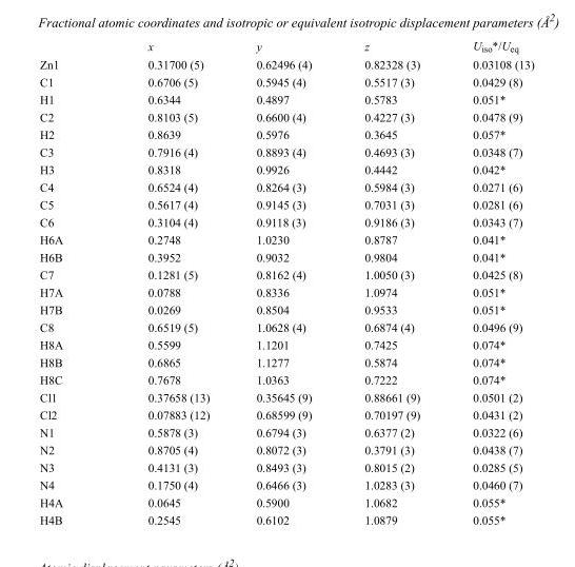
<table><thead><tr><td></td><td>x</td><td>y</td><td>z</td><td>U<sub>iso</sub>*/U<sub>eq</sub></td></tr></thead><tbody><tr><td>Zn1</td><td>0.31700 (5)</td><td>0.62496 (4)</td><td>0.82328 (3)</td><td>0.03108 (13)</td></tr><tr><td>C1</td><td>0.6706 (5)</td><td>0.5945 (4)</td><td>0.5517 (3)</td><td>0.0429 (8)</td></tr><tr><td>H1</td><td>0.6344</td><td>0.4897</td><td>0.5783</td><td>0.051*</td></tr><tr><td>C2</td><td>0.8103 (5)</td><td>0.6600 (4)</td><td>0.4227 (3)</td><td>0.0478 (9)</td></tr><tr><td>H2</td><td>0.8639</td><td>0.5976</td><td>0.3645</td><td>0.057*</td></tr><tr><td>C3</td><td>0.7916 (4)</td><td>0.8893 (4)</td><td>0.4693 (3)</td><td>0.0348 (7)</td></tr><tr><td>H3</td><td>0.8318</td><td>0.9926</td><td>0.4442</td><td>0.042*</td></tr><tr><td>C4</td><td>0.6524 (4)</td><td>0.8264 (3)</td><td>0.5984 (3)</td><td>0.0271 (6)</td></tr><tr><td>C5</td><td>0.5617 (4)</td><td>0.9145 (3)</td><td>0.7031 (3)</td><td>0.0281 (6)</td></tr><tr><td>C6</td><td>0.3104 (4)</td><td>0.9118 (3)</td><td>0.9186 (3)</td><td>0.0343 (7)</td></tr><tr><td>H6A</td><td>0.2748</td><td>1.0230</td><td>0.8787</td><td>0.041*</td></tr><tr><td>H6B</td><td>0.3952</td><td>0.9032</td><td>0.9804</td><td>0.041*</td></tr><tr><td>C7</td><td>0.1281 (5)</td><td>0.8162 (4)</td><td>1.0050 (3)</td><td>0.0425 (8)</td></tr><tr><td>H7A</td><td>0.0788</td><td>0.8336</td><td>1.0974</td><td>0.051*</td></tr><tr><td>H7B</td><td>0.0269</td><td>0.8504</td><td>0.9533</td><td>0.051*</td></tr><tr><td>C8</td><td>0.6519 (5)</td><td>1.0628 (4)</td><td>0.6874 (4)</td><td>0.0496 (9)</td></tr><tr><td>H8A</td><td>0.5599</td><td>1.1201</td><td>0.7425</td><td>0.074*</td></tr><tr><td>H8B</td><td>0.6865</td><td>1.1277</td><td>0.5874</td><td>0.074*</td></tr><tr><td>H8C</td><td>0.7678</td><td>1.0363</td><td>0.7222</td><td>0.074*</td></tr><tr><td>Cl1</td><td>0.37658 (13)</td><td>0.35645 (9)</td><td>0.88661 (9)</td><td>0.0501 (2)</td></tr><tr><td>Cl2</td><td>0.07883 (12)</td><td>0.68599 (9)</td><td>0.70197 (9)</td><td>0.0431 (2)</td></tr><tr><td>N1</td><td>0.5878 (3)</td><td>0.6794 (3)</td><td>0.6377 (2)</td><td>0.0322 (6)</td></tr><tr><td>N2</td><td>0.8705 (4)</td><td>0.8072 (3)</td><td>0.3791 (3)</td><td>0.0438 (7)</td></tr><tr><td>N3</td><td>0.4131 (3)</td><td>0.8493 (3)</td><td>0.8015 (2)</td><td>0.0285 (5)</td></tr><tr><td>N4</td><td>0.1750 (4)</td><td>0.6466 (3)</td><td>1.0283 (3)</td><td>0.0460 (7)</td></tr><tr><td>H4A</td><td>0.0645</td><td>0.5900</td><td>1.0682</td><td>0.055*</td></tr><tr><td>H4B</td><td>0.2545</td><td>0.6102</td><td>1.0879</td><td>0.055*</td></tr></tbody></table>